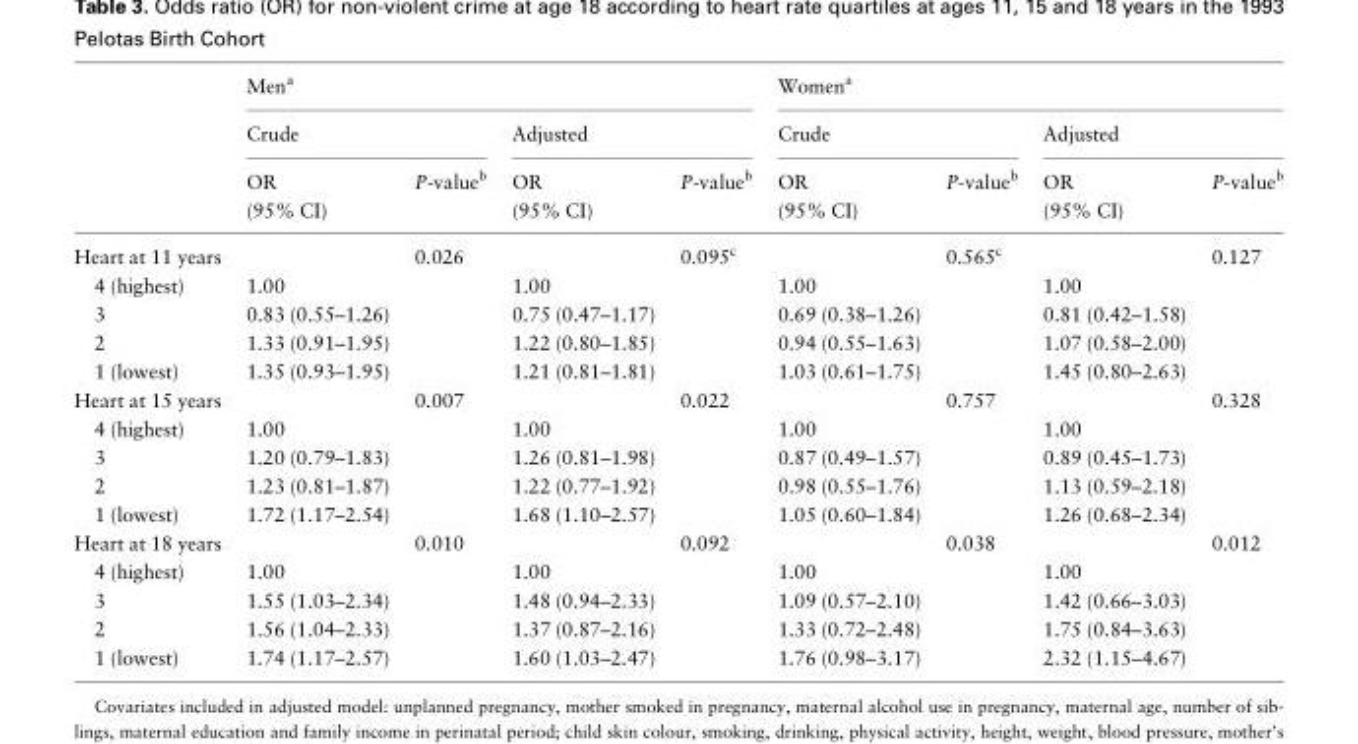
<table><thead><tr><td rowspan="3"></td><td colspan="4">Men<sup>a</sup></td><td colspan="4">Women<sup>a</sup></td></tr><tr><td colspan="2">Crude</td><td colspan="2">Adjusted</td><td colspan="2">Crude</td><td colspan="2">Adjusted</td></tr><tr><td>OR (95% CI)</td><td>P-value<sup>b</sup></td><td>OR (95% CI)</td><td>P-value<sup>b</sup></td><td>OR (95% CI)</td><td>P-value<sup>b</sup></td><td>OR (95% CI)</td><td>P-value<sup>b</sup></td></tr></thead><tbody><tr><td>Heart at 11 years</td><td></td><td>0.026</td><td></td><td>0.095<sup>c</sup></td><td></td><td>0.565<sup>c</sup></td><td></td><td>0.127</td></tr><tr><td>4 (highest)</td><td>1.00</td><td></td><td>1.00</td><td></td><td>1.00</td><td></td><td>1.00</td><td></td></tr><tr><td>3</td><td>0.83 (0.55–1.26)</td><td></td><td>0.75 (0.47–1.17)</td><td></td><td>0.69 (0.38–1.26)</td><td></td><td>0.81 (0.42–1.58)</td><td></td></tr><tr><td>2</td><td>1.33 (0.91–1.95)</td><td></td><td>1.22 (0.80–1.85)</td><td></td><td>0.94 (0.55–1.63)</td><td></td><td>1.07 (0.58–2.00)</td><td></td></tr><tr><td>1 (lowest)</td><td>1.35 (0.93–1.95)</td><td></td><td>1.21 (0.81–1.81)</td><td></td><td>1.03 (0.61–1.75)</td><td></td><td>1.45 (0.80–2.63)</td><td></td></tr><tr><td>Heart at 15 years</td><td></td><td>0.007</td><td></td><td>0.022</td><td></td><td>0.757</td><td></td><td>0.328</td></tr><tr><td>4 (highest)</td><td>1.00</td><td></td><td>1.00</td><td></td><td>1.00</td><td></td><td>1.00</td><td></td></tr><tr><td>3</td><td>1.20 (0.79–1.83)</td><td></td><td>1.26 (0.81–1.98)</td><td></td><td>0.87 (0.49–1.57)</td><td></td><td>0.89 (0.45–1.73)</td><td></td></tr><tr><td>2</td><td>1.23 (0.81–1.87)</td><td></td><td>1.22 (0.77–1.92)</td><td></td><td>0.98 (0.55–1.76)</td><td></td><td>1.13 (0.59–2.18)</td><td></td></tr><tr><td>1 (lowest)</td><td>1.72 (1.17–2.54)</td><td></td><td>1.68 (1.10–2.57)</td><td></td><td>1.05 (0.60–1.84)</td><td></td><td>1.26 (0.68–2.34)</td><td></td></tr><tr><td>Heart at 18 years</td><td></td><td>0.010</td><td></td><td>0.092</td><td></td><td>0.038</td><td></td><td>0.012</td></tr><tr><td>4 (highest)</td><td>1.00</td><td></td><td>1.00</td><td></td><td>1.00</td><td></td><td>1.00</td><td></td></tr><tr><td>3</td><td>1.55 (1.03–2.34)</td><td></td><td>1.48 (0.94–2.33)</td><td></td><td>1.09 (0.57–2.10)</td><td></td><td>1.42 (0.66–3.03)</td><td></td></tr><tr><td>2</td><td>1.56 (1.04–2.33)</td><td></td><td>1.37 (0.87–2.16)</td><td></td><td>1.33 (0.72–2.48)</td><td></td><td>1.75 (0.84–3.63)</td><td></td></tr><tr><td>1 (lowest)</td><td>1.74 (1.17–2.57)</td><td></td><td>1.60 (1.03–2.47)</td><td></td><td>1.76 (0.98–3.17)</td><td></td><td>2.32 (1.15–4.67)</td><td></td></tr></tbody></table>